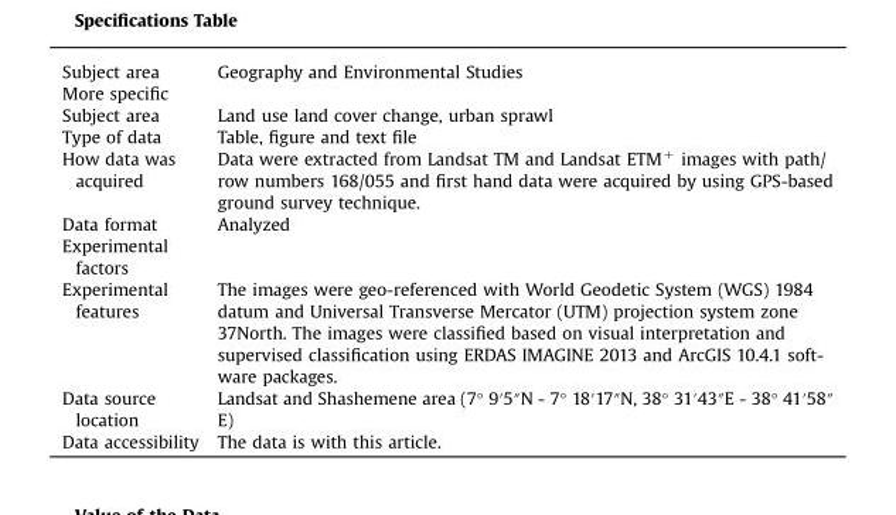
<table><tbody><tr><td>Subject area</td><td>Geography and Environmental Studies</td></tr><tr><td colspan="2">More specific</td></tr><tr><td>Subject area</td><td>Land use land cover change, urban sprawl</td></tr><tr><td>Type of data</td><td>Table, figure and text file</td></tr><tr><td>How data was acquired</td><td>Data were extracted from Landsat TM and Landsat ETM<sup>+</sup> images with path/ row numbers 168/055 and first hand data were acquired by using GPS-based ground survey technique.</td></tr><tr><td>Data format</td><td>Analyzed</td></tr><tr><td colspan="2">Experimental factors</td></tr><tr><td>Experimental features</td><td>The images were geo-referenced with World Geodetic System (WGS) 1984 datum and Universal Transverse Mercator (UTM) projection system zone 37North. The images were classified based on visual interpretation and supervised classification using ERDAS IMAGINE 2013 and ArcGIS 10.4.1 soft- ware packages.</td></tr><tr><td>Data source location</td><td>Landsat and Shashemene area (7° 9′5″N - 7° 18′17″N, 38° 31′43″E - 38° 41′58″ E)</td></tr><tr><td>Data accessibility</td><td>The data is with this article.</td></tr></tbody></table>